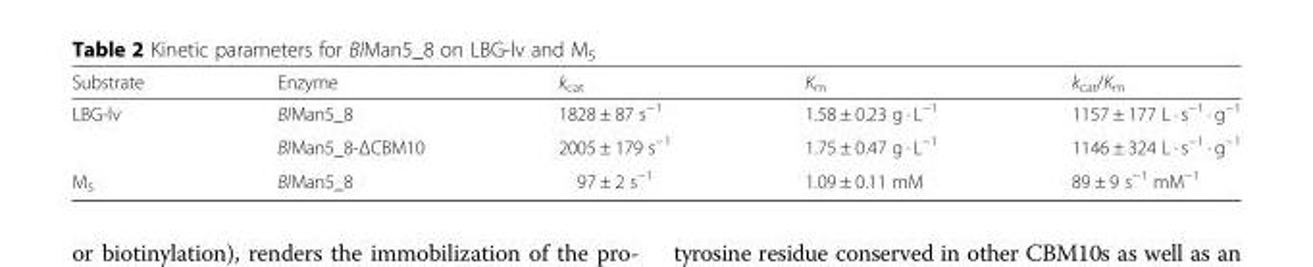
<table><thead><tr><td>Substrate</td><td>Enzyme</td><td>k<sub>cat</sub></td><td>K<sub>m</sub></td><td>k<sub>cat</sub>/K<sub>m</sub></td></tr></thead><tbody><tr><td rowspan="2">LBG-lv</td><td>BlMan5_8</td><td>1828 ± 87 s<sup>−1</sup></td><td>1.58 ± 0.23 g · L<sup>−1</sup></td><td>1157 ± 177 L · s<sup>−1</sup> · g<sup>−1</sup></td></tr><tr><td>BlMan5_8-ΔCBM10</td><td>2005 ± 179 s<sup>−1</sup></td><td>1.75 ± 0.47 g · L<sup>−1</sup></td><td>1146 ± 324 L · s<sup>−1</sup> · g<sup>−1</sup></td></tr><tr><td>M<sub>5</sub></td><td>BlMan5_8</td><td>97 ± 2 s<sup>−1</sup></td><td>1.09 ± 0.11 mM</td><td>89 ± 9 s<sup>−1</sup> mM<sup>−1</sup></td></tr></tbody></table>